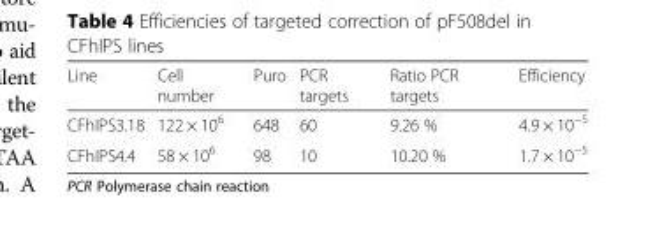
<table><thead><tr><td>Line</td><td>Cell number</td><td>Puro</td><td>PCR targets</td><td>Ratio PCR targets</td><td>Efficiency</td></tr></thead><tbody><tr><td>CFhIPS3.18</td><td>122 × 106</td><td>648</td><td>60</td><td>9.26 %</td><td>4.9 × 10−5</td></tr><tr><td>CFhIPS4.4</td><td>58 × 106</td><td>98</td><td>10</td><td>10.20 %</td><td>1.7 × 10−5</td></tr></tbody></table>